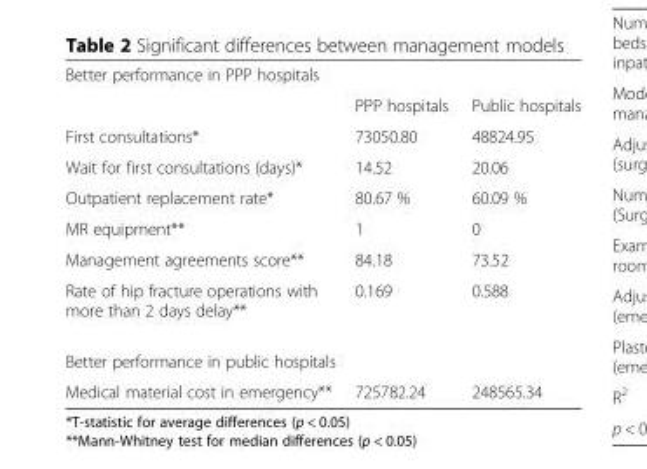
<table><tbody><tr><td colspan="3">Better performance in PPP hospitals</td></tr><tr><td></td><td>PPP hospitals</td><td>Public hospitals</td></tr><tr><td>First consultations*</td><td>73050.80</td><td>48824.95</td></tr><tr><td>Wait for first consultations (days)*</td><td>14.52</td><td>20.06</td></tr><tr><td>Outpatient replacement rate*</td><td>80.67 %</td><td>60.09 %</td></tr><tr><td>MR equipment**</td><td>1</td><td>0</td></tr><tr><td>Management agreements score**</td><td>84.18</td><td>73.52</td></tr><tr><td>Rate of hip fracture operations with more than 2 days delay**</td><td>0.169</td><td>0.588</td></tr><tr><td colspan="3">Better performance in public hospitals</td></tr><tr><td>Medical material cost in emergency**</td><td>725782.24</td><td>248565.34</td></tr></tbody></table>